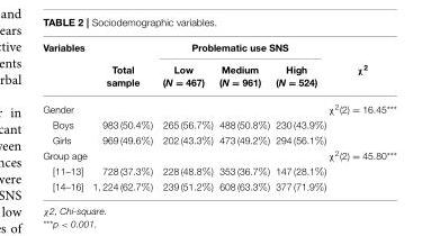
<table><thead><tr><td rowspan="2">Variables</td><td rowspan="2">Total sample</td><td colspan="3">Problematic use SNS</td><td rowspan="2">χ<sup>2</sup></td></tr><tr><td>Low (N = 467)</td><td>Medium (N = 961)</td><td>High (N = 524)</td></tr></thead><tbody><tr><td>Gender</td><td></td><td></td><td></td><td></td><td>χ<sup>2</sup>(2) = 16.45***</td></tr><tr><td>Boys</td><td>983 (50.4%)</td><td>265 (56.7%)</td><td>488 (50.8%)</td><td>230 (43.9%)</td><td></td></tr><tr><td>Girls</td><td>969 (49.6%)</td><td>202 (43.3%)</td><td>473 (49.2%)</td><td>294 (56.1%)</td><td></td></tr><tr><td>Group age</td><td></td><td></td><td></td><td></td><td>χ<sup>2</sup>(2) = 45.80***</td></tr><tr><td>[11–13]</td><td>728 (37.3%)</td><td>228 (48.8%)</td><td>353 (36.7%)</td><td>147 (28.1%)</td><td></td></tr><tr><td>[14–16]</td><td>1, 224 (62.7%)</td><td>239 (51.2%)</td><td>608 (63.3%)</td><td>377 (71.9%)</td><td></td></tr></tbody></table>